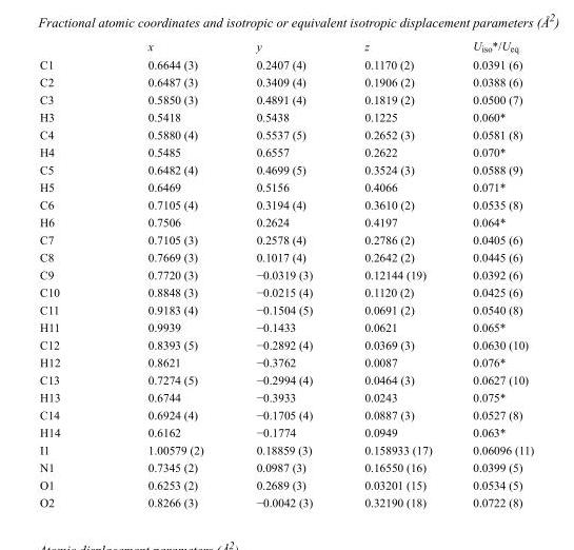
<table><thead><tr><td></td><td>x</td><td>y</td><td>z</td><td>U<sub>iso</sub>*/U<sub>eq</sub></td></tr></thead><tbody><tr><td>C1</td><td>0.6644 (3)</td><td>0.2407 (4)</td><td>0.1170 (2)</td><td>0.0391 (6)</td></tr><tr><td>C2</td><td>0.6487 (3)</td><td>0.3409 (4)</td><td>0.1906 (2)</td><td>0.0388 (6)</td></tr><tr><td>C3</td><td>0.5850 (3)</td><td>0.4891 (4)</td><td>0.1819 (2)</td><td>0.0500 (7)</td></tr><tr><td>H3</td><td>0.5418</td><td>0.5438</td><td>0.1225</td><td>0.060*</td></tr><tr><td>C4</td><td>0.5880 (4)</td><td>0.5537 (5)</td><td>0.2652 (3)</td><td>0.0581 (8)</td></tr><tr><td>H4</td><td>0.5485</td><td>0.6557</td><td>0.2622</td><td>0.070*</td></tr><tr><td>C5</td><td>0.6482 (4)</td><td>0.4699 (5)</td><td>0.3524 (3)</td><td>0.0588 (9)</td></tr><tr><td>H5</td><td>0.6469</td><td>0.5156</td><td>0.4066</td><td>0.071*</td></tr><tr><td>C6</td><td>0.7105 (4)</td><td>0.3194 (4)</td><td>0.3610 (2)</td><td>0.0535 (8)</td></tr><tr><td>H6</td><td>0.7506</td><td>0.2624</td><td>0.4197</td><td>0.064*</td></tr><tr><td>C7</td><td>0.7105 (3)</td><td>0.2578 (4)</td><td>0.2786 (2)</td><td>0.0405 (6)</td></tr><tr><td>C8</td><td>0.7669 (3)</td><td>0.1017 (4)</td><td>0.2642 (2)</td><td>0.0445 (6)</td></tr><tr><td>C9</td><td>0.7720 (3)</td><td>−0.0319 (3)</td><td>0.12144 (19)</td><td>0.0392 (6)</td></tr><tr><td>C10</td><td>0.8848 (3)</td><td>−0.0215 (4)</td><td>0.1120 (2)</td><td>0.0425 (6)</td></tr><tr><td>C11</td><td>0.9183 (4)</td><td>−0.1504 (5)</td><td>0.0691 (2)</td><td>0.0540 (8)</td></tr><tr><td>H11</td><td>0.9939</td><td>−0.1433</td><td>0.0621</td><td>0.065*</td></tr><tr><td>C12</td><td>0.8393 (5)</td><td>−0.2892 (4)</td><td>0.0369 (3)</td><td>0.0630 (10)</td></tr><tr><td>H12</td><td>0.8621</td><td>−0.3762</td><td>0.0087</td><td>0.076*</td></tr><tr><td>C13</td><td>0.7274 (5)</td><td>−0.2994 (4)</td><td>0.0464 (3)</td><td>0.0627 (10)</td></tr><tr><td>H13</td><td>0.6744</td><td>−0.3933</td><td>0.0243</td><td>0.075*</td></tr><tr><td>C14</td><td>0.6924 (4)</td><td>−0.1705 (4)</td><td>0.0887 (3)</td><td>0.0527 (8)</td></tr><tr><td>H14</td><td>0.6162</td><td>−0.1774</td><td>0.0949</td><td>0.063*</td></tr><tr><td>I1</td><td>1.00579 (2)</td><td>0.18859 (3)</td><td>0.158933 (17)</td><td>0.06096 (11)</td></tr><tr><td>N1</td><td>0.7345 (2)</td><td>0.0987 (3)</td><td>0.16550 (16)</td><td>0.0399 (5)</td></tr><tr><td>O1</td><td>0.6253 (2)</td><td>0.2689 (3)</td><td>0.03201 (15)</td><td>0.0534 (5)</td></tr><tr><td>O2</td><td>0.8266 (3)</td><td>−0.0042 (3)</td><td>0.32190 (18)</td><td>0.0722 (8)</td></tr></tbody></table>